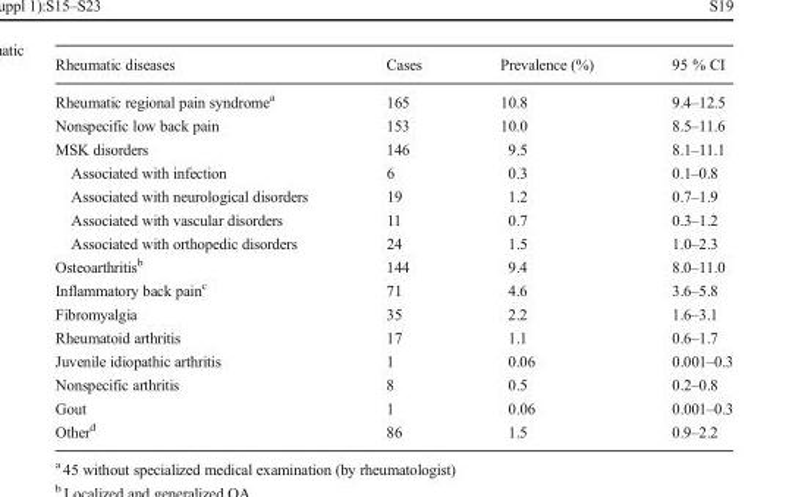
<table><thead><tr><td>Rheumatic diseases</td><td>Cases</td><td>Prevalence (%)</td><td>95 % CI</td></tr></thead><tbody><tr><td>Rheumatic regional pain syndrome<sup>a</sup></td><td>165</td><td>10.8</td><td>9.4–12.5</td></tr><tr><td>Nonspecific low back pain</td><td>153</td><td>10.0</td><td>8.5–11.6</td></tr><tr><td>MSK disorders</td><td>146</td><td>9.5</td><td>8.1–11.1</td></tr><tr><td>Associated with infection</td><td>6</td><td>0.3</td><td>0.1–0.8</td></tr><tr><td>Associated with neurological disorders</td><td>19</td><td>1.2</td><td>0.7–1.9</td></tr><tr><td>Associated with vascular disorders</td><td>11</td><td>0.7</td><td>0.3–1.2</td></tr><tr><td>Associated with orthopedic disorders</td><td>24</td><td>1.5</td><td>1.0–2.3</td></tr><tr><td>Osteoarthritis<sup>b</sup></td><td>144</td><td>9.4</td><td>8.0–11.0</td></tr><tr><td>Inflammatory back pain<sup>c</sup></td><td>71</td><td>4.6</td><td>3.6–5.8</td></tr><tr><td>Fibromyalgia</td><td>35</td><td>2.2</td><td>1.6–3.1</td></tr><tr><td>Rheumatoid arthritis</td><td>17</td><td>1.1</td><td>0.6–1.7</td></tr><tr><td>Juvenile idiopathic arthritis</td><td>1</td><td>0.06</td><td>0.001–0.3</td></tr><tr><td>Nonspecific arthritis</td><td>8</td><td>0.5</td><td>0.2–0.8</td></tr><tr><td>Gout</td><td>1</td><td>0.06</td><td>0.001–0.3</td></tr><tr><td>Other<sup>d</sup></td><td>86</td><td>1.5</td><td>0.9–2.2</td></tr></tbody></table>